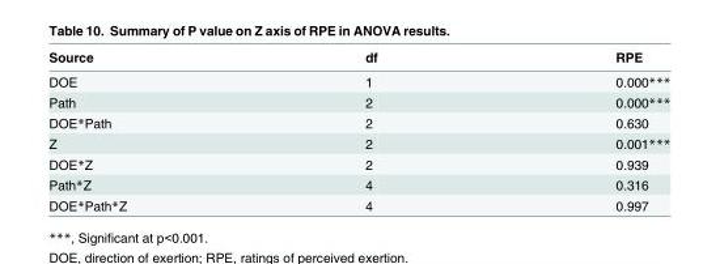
<table><thead><tr><td>Source</td><td>df</td><td>RPE</td></tr></thead><tbody><tr><td>DOE</td><td>1</td><td>0.000***</td></tr><tr><td>Path</td><td>2</td><td>0.000***</td></tr><tr><td>DOE*Path</td><td>2</td><td>0.630</td></tr><tr><td>Z</td><td>2</td><td>0.001***</td></tr><tr><td>DOE*Z</td><td>2</td><td>0.939</td></tr><tr><td>Path*Z</td><td>4</td><td>0.316</td></tr><tr><td>DOE*Path*Z</td><td>4</td><td>0.997</td></tr></tbody></table>